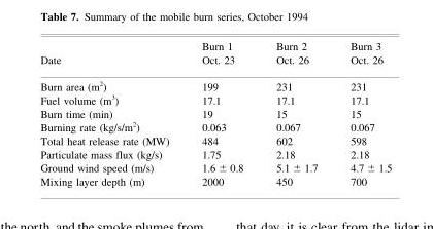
<table><thead><tr><td rowspan="2">Date</td><td rowspan="2">Burn 1 Oct. 23</td><td rowspan="2">Burn 2 Oct. 26</td><td rowspan="2">Burn 3 Oct. 26</td></tr><tr></tr></thead><tbody><tr><td>Burn area (m<sup>2</sup>)</td><td>199</td><td>231</td><td>231</td></tr><tr><td>Fuel volume (m<sup>3</sup>)</td><td>17.1</td><td>17.1</td><td>17.1</td></tr><tr><td>Burn time (min)</td><td>19</td><td>15</td><td>15</td></tr><tr><td>Burning rate (kg/s/m<sup>2</sup>)</td><td>0.063</td><td>0.067</td><td>0.067</td></tr><tr><td>Total heat release rate (MW)</td><td>484</td><td>602</td><td>598</td></tr><tr><td>Particulate mass flux (kg/s)</td><td>1.75</td><td>2.18</td><td>2.18</td></tr><tr><td>Ground wind speed (m/s)</td><td>1.6 ± 0.8</td><td>5.1 ± 1.7</td><td>4.7 ± 1.5</td></tr><tr><td>Mixing layer depth (m)</td><td>2000</td><td>450</td><td>700</td></tr></tbody></table>